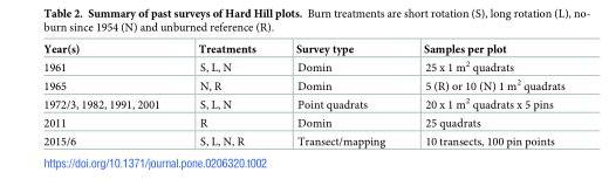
<table><thead><tr><td>Year(s)</td><td>Treatments</td><td>Survey type</td><td>Samples per plot</td></tr></thead><tbody><tr><td>1961</td><td>S, L, N</td><td>Domin</td><td>25 x 1 m<sup>2</sup> quadrats</td></tr><tr><td>1965</td><td>N, R</td><td>Domin</td><td>5 (R) or 10 (N) 1 m<sup>2</sup> quadrats</td></tr><tr><td>1972/3, 1982, 1991, 2001</td><td>S, L, N</td><td>Point quadrats</td><td>20 x 1 m<sup>2</sup> quadrats x 5 pins</td></tr><tr><td>2011</td><td>R</td><td>Domin</td><td>25 quadrats</td></tr><tr><td>2015/6</td><td>S, L, N, R</td><td>Transect/mapping</td><td>10 transects, 100 pin points</td></tr></tbody></table>